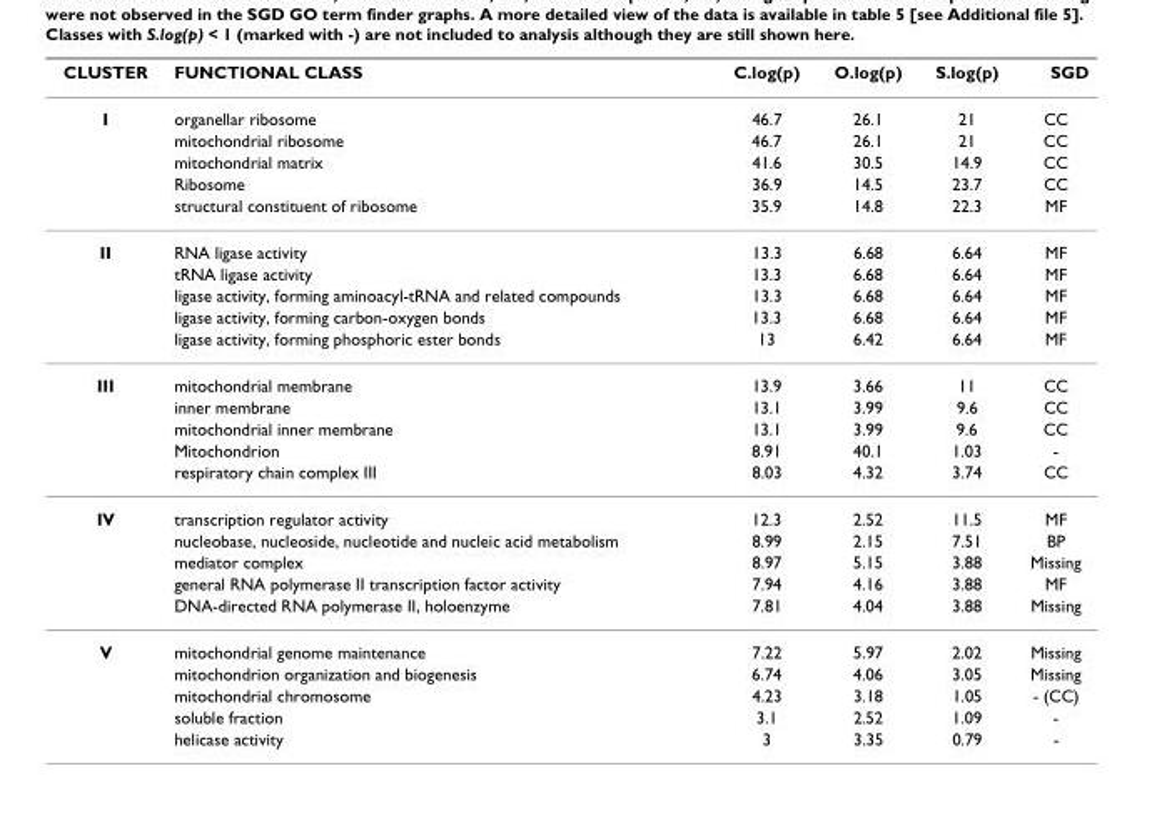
<table><thead><tr><td>CLUSTER</td><td>FUNCTIONAL CLASS</td><td>C.log(p)</td><td>O.log(p)</td><td>S.log(p)</td><td>SGD</td></tr></thead><tbody><tr><td rowspan="5">I</td><td>organellar ribosome</td><td>46.7</td><td>26.1</td><td>21</td><td>CC</td></tr><tr><td>mitochondrial ribosome</td><td>46.7</td><td>26.1</td><td>21</td><td>CC</td></tr><tr><td>mitochondrial matrix</td><td>41.6</td><td>30.5</td><td>14.9</td><td>CC</td></tr><tr><td>Ribosome</td><td>36.9</td><td>14.5</td><td>23.7</td><td>CC</td></tr><tr><td>structural constituent of ribosome</td><td>35.9</td><td>14.8</td><td>22.3</td><td>MF</td></tr><tr><td rowspan="5">II</td><td>RNA ligase activity</td><td>13.3</td><td>6.68</td><td>6.64</td><td>MF</td></tr><tr><td>tRNA ligase activity</td><td>13.3</td><td>6.68</td><td>6.64</td><td>MF</td></tr><tr><td>ligase activity, forming aminoacyl-tRNA and related compounds</td><td>13.3</td><td>6.68</td><td>6.64</td><td>MF</td></tr><tr><td>ligase activity, forming carbon-oxygen bonds</td><td>13.3</td><td>6.68</td><td>6.64</td><td>MF</td></tr><tr><td>ligase activity, forming phosphoric ester bonds</td><td>13</td><td>6.42</td><td>6.64</td><td>MF</td></tr><tr><td rowspan="5">III</td><td>mitochondrial membrane</td><td>13.9</td><td>3.66</td><td>11</td><td>CC</td></tr><tr><td>inner membrane</td><td>13.1</td><td>3.99</td><td>9.6</td><td>CC</td></tr><tr><td>mitochondrial inner membrane</td><td>13.1</td><td>3.99</td><td>9.6</td><td>CC</td></tr><tr><td>Mitochondrion</td><td>8.91</td><td>40.1</td><td>1.03</td><td>-</td></tr><tr><td>respiratory chain complex III</td><td>8.03</td><td>4.32</td><td>3.74</td><td>CC</td></tr><tr><td rowspan="5">IV</td><td>transcription regulator activity</td><td>12.3</td><td>2.52</td><td>11.5</td><td>MF</td></tr><tr><td>nucleobase, nucleoside, nucleotide and nucleic acid metabolism</td><td>8.99</td><td>2.15</td><td>7.51</td><td>BP</td></tr><tr><td>mediator complex</td><td>8.97</td><td>5.15</td><td>3.88</td><td>Missing</td></tr><tr><td>general RNA polymerase II transcription factor activity</td><td>7.94</td><td>4.16</td><td>3.88</td><td>MF</td></tr><tr><td>DNA-directed RNA polymerase II, holoenzyme</td><td>7.81</td><td>4.04</td><td>3.88</td><td>Missing</td></tr><tr><td rowspan="5">V</td><td>mitochondrial genome maintenance</td><td>7.22</td><td>5.97</td><td>2.02</td><td>Missing</td></tr><tr><td>mitochondrion organization and biogenesis</td><td>6.74</td><td>4.06</td><td>3.05</td><td>Missing</td></tr><tr><td>mitochondrial chromosome</td><td>4.23</td><td>3.18</td><td>1.05</td><td>- (CC)</td></tr><tr><td>soluble fraction</td><td>3.1</td><td>2.52</td><td>1.09</td><td>-</td></tr><tr><td>helicase activity</td><td>3</td><td>3.35</td><td>0.79</td><td>-</td></tr></tbody></table>